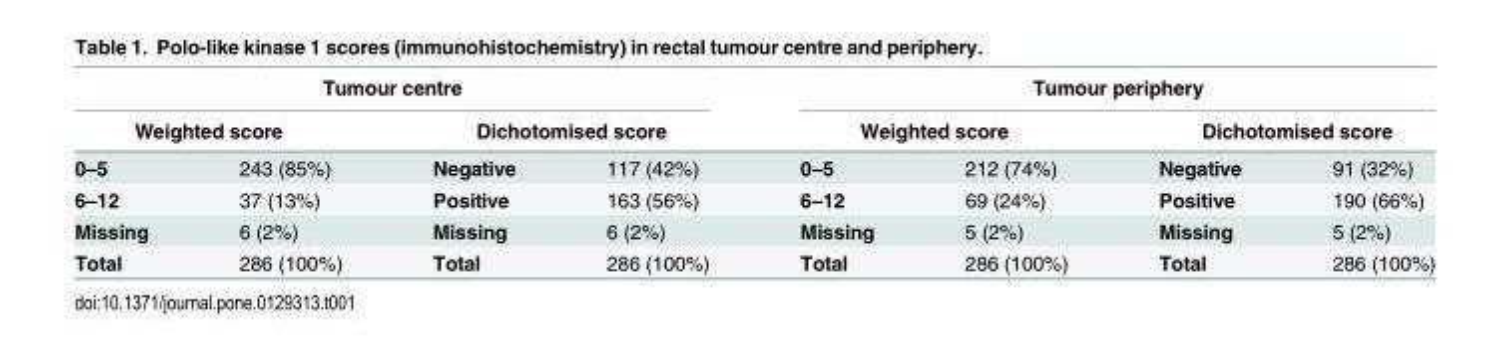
<table><thead><tr><td colspan="4">Tumour centre</td><td colspan="4">Tumour periphery</td></tr><tr><td colspan="2">Weighted score</td><td colspan="2">Dichotomised score</td><td colspan="2">Weighted score</td><td colspan="2">Dichotomised score</td></tr><tr><td>0–5</td><td>243 (85%)</td><td>Negative</td><td>117 (42%)</td><td>0–5</td><td>212 (74%)</td><td>Negative</td><td>91 (32%)</td></tr></thead><tbody><tr><td>6–12</td><td>37 (13%)</td><td>Positive</td><td>163 (56%)</td><td>6–12</td><td>69 (24%)</td><td>Positive</td><td>190 (66%)</td></tr><tr><td>Missing</td><td>6 (2%)</td><td>Missing</td><td>6 (2%)</td><td>Missing</td><td>5 (2%)</td><td>Missing</td><td>5 (2%)</td></tr><tr><td>Total</td><td>286 (100%)</td><td>Total</td><td>286 (100%)</td><td>Total</td><td>286 (100%)</td><td>Total</td><td>286 (100%)</td></tr></tbody></table>